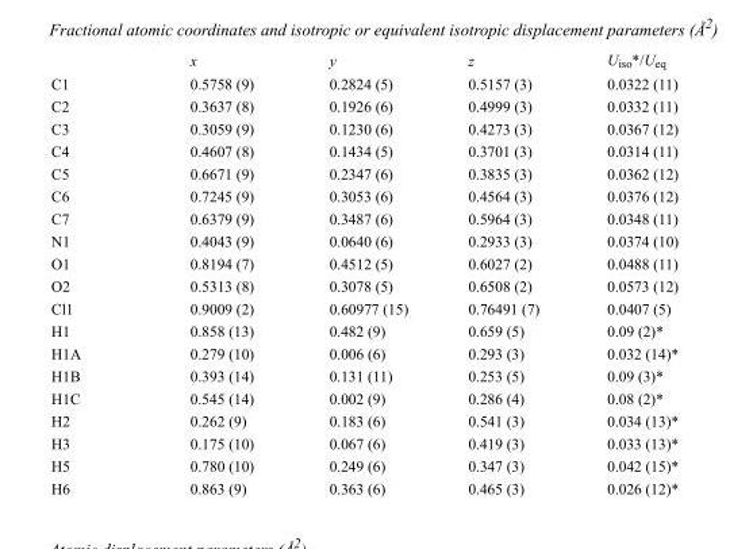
<table><thead><tr><td></td><td>x</td><td>y</td><td>z</td><td>U<sub>iso</sub>*/U<sub>eq</sub></td></tr></thead><tbody><tr><td>C1</td><td>0.5758 (9)</td><td>0.2824 (5)</td><td>0.5157 (3)</td><td>0.0322 (11)</td></tr><tr><td>C2</td><td>0.3637 (8)</td><td>0.1926 (6)</td><td>0.4999 (3)</td><td>0.0332 (11)</td></tr><tr><td>C3</td><td>0.3059 (9)</td><td>0.1230 (6)</td><td>0.4273 (3)</td><td>0.0367 (12)</td></tr><tr><td>C4</td><td>0.4607 (8)</td><td>0.1434 (5)</td><td>0.3701 (3)</td><td>0.0314 (11)</td></tr><tr><td>C5</td><td>0.6671 (9)</td><td>0.2347 (6)</td><td>0.3835 (3)</td><td>0.0362 (12)</td></tr><tr><td>C6</td><td>0.7245 (9)</td><td>0.3053 (6)</td><td>0.4564 (3)</td><td>0.0376 (12)</td></tr><tr><td>C7</td><td>0.6379 (9)</td><td>0.3487 (6)</td><td>0.5964 (3)</td><td>0.0348 (11)</td></tr><tr><td>N1</td><td>0.4043 (9)</td><td>0.0640 (6)</td><td>0.2933 (3)</td><td>0.0374 (10)</td></tr><tr><td>O1</td><td>0.8194 (7)</td><td>0.4512 (5)</td><td>0.6027 (2)</td><td>0.0488 (11)</td></tr><tr><td>O2</td><td>0.5313 (8)</td><td>0.3078 (5)</td><td>0.6508 (2)</td><td>0.0573 (12)</td></tr><tr><td>Cl1</td><td>0.9009 (2)</td><td>0.60977 (15)</td><td>0.76491 (7)</td><td>0.0407 (5)</td></tr><tr><td>H1</td><td>0.858 (13)</td><td>0.482 (9)</td><td>0.659 (5)</td><td>0.09 (2)*</td></tr><tr><td>H1A</td><td>0.279 (10)</td><td>0.006 (6)</td><td>0.293 (3)</td><td>0.032 (14)*</td></tr><tr><td>H1B</td><td>0.393 (14)</td><td>0.131 (11)</td><td>0.253 (5)</td><td>0.09 (3)*</td></tr><tr><td>H1C</td><td>0.545 (14)</td><td>0.002 (9)</td><td>0.286 (4)</td><td>0.08 (2)*</td></tr><tr><td>H2</td><td>0.262 (9)</td><td>0.183 (6)</td><td>0.541 (3)</td><td>0.034 (13)*</td></tr><tr><td>H3</td><td>0.175 (10)</td><td>0.067 (6)</td><td>0.419 (3)</td><td>0.033 (13)*</td></tr><tr><td>H5</td><td>0.780 (10)</td><td>0.249 (6)</td><td>0.347 (3)</td><td>0.042 (15)*</td></tr><tr><td>H6</td><td>0.863 (9)</td><td>0.363 (6)</td><td>0.465 (3)</td><td>0.026 (12)*</td></tr></tbody></table>